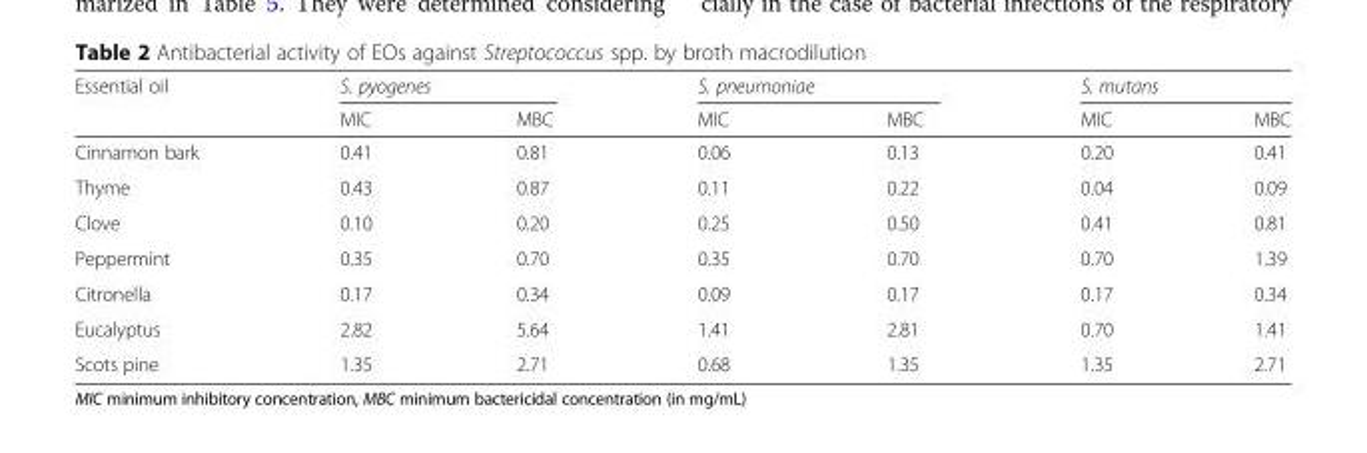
<table><thead><tr><td rowspan="2">Essential oil</td><td colspan="2">S. pyogenes</td><td colspan="2">S. pneumoniae</td><td colspan="2">S. mutans</td></tr><tr><td>MIC</td><td>MBC</td><td>MIC</td><td>MBC</td><td>MIC</td><td>MBC</td></tr></thead><tbody><tr><td>Cinnamon bark</td><td>0.41</td><td>0.81</td><td>0.06</td><td>0.13</td><td>0.20</td><td>0.41</td></tr><tr><td>Thyme</td><td>0.43</td><td>0.87</td><td>0.11</td><td>0.22</td><td>0.04</td><td>0.09</td></tr><tr><td>Clove</td><td>0.10</td><td>0.20</td><td>0.25</td><td>0.50</td><td>0.41</td><td>0.81</td></tr><tr><td>Peppermint</td><td>0.35</td><td>0.70</td><td>0.35</td><td>0.70</td><td>0.70</td><td>1.39</td></tr><tr><td>Citronella</td><td>0.17</td><td>0.34</td><td>0.09</td><td>0.17</td><td>0.17</td><td>0.34</td></tr><tr><td>Eucalyptus</td><td>2.82</td><td>5.64</td><td>1.41</td><td>2.81</td><td>0.70</td><td>1.41</td></tr><tr><td>Scots pine</td><td>1.35</td><td>2.71</td><td>0.68</td><td>1.35</td><td>1.35</td><td>2.71</td></tr></tbody></table>